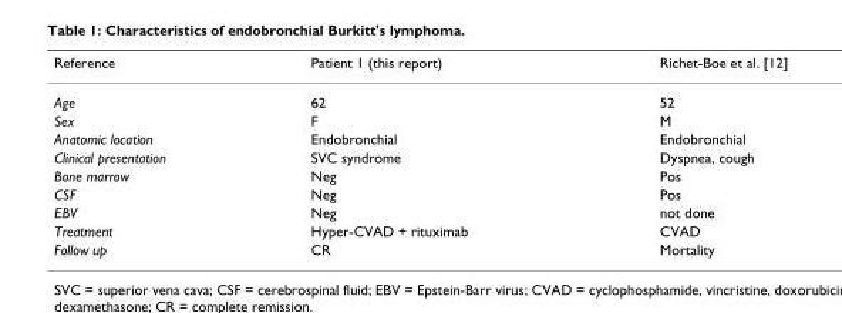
<table><thead><tr><td>Reference</td><td>Patient 1 (this report)</td><td>Richet-Boe et al. [12]</td></tr></thead><tbody><tr><td>Age</td><td>62</td><td>52</td></tr><tr><td>Sex</td><td>F</td><td>M</td></tr><tr><td>Anatomic location</td><td>Endobronchial</td><td>Endobronchial</td></tr><tr><td>Clinical presentation</td><td>SVC syndrome</td><td>Dyspnea, cough</td></tr><tr><td>Bone marrow</td><td>Neg</td><td>Pos</td></tr><tr><td>CSF</td><td>Neg</td><td>Pos</td></tr><tr><td>EBV</td><td>Neg</td><td>not done</td></tr><tr><td>Treatment</td><td>Hyper-CVAD + rituximab</td><td>CVAD</td></tr><tr><td>Follow up</td><td>CR</td><td>Mortality</td></tr></tbody></table>